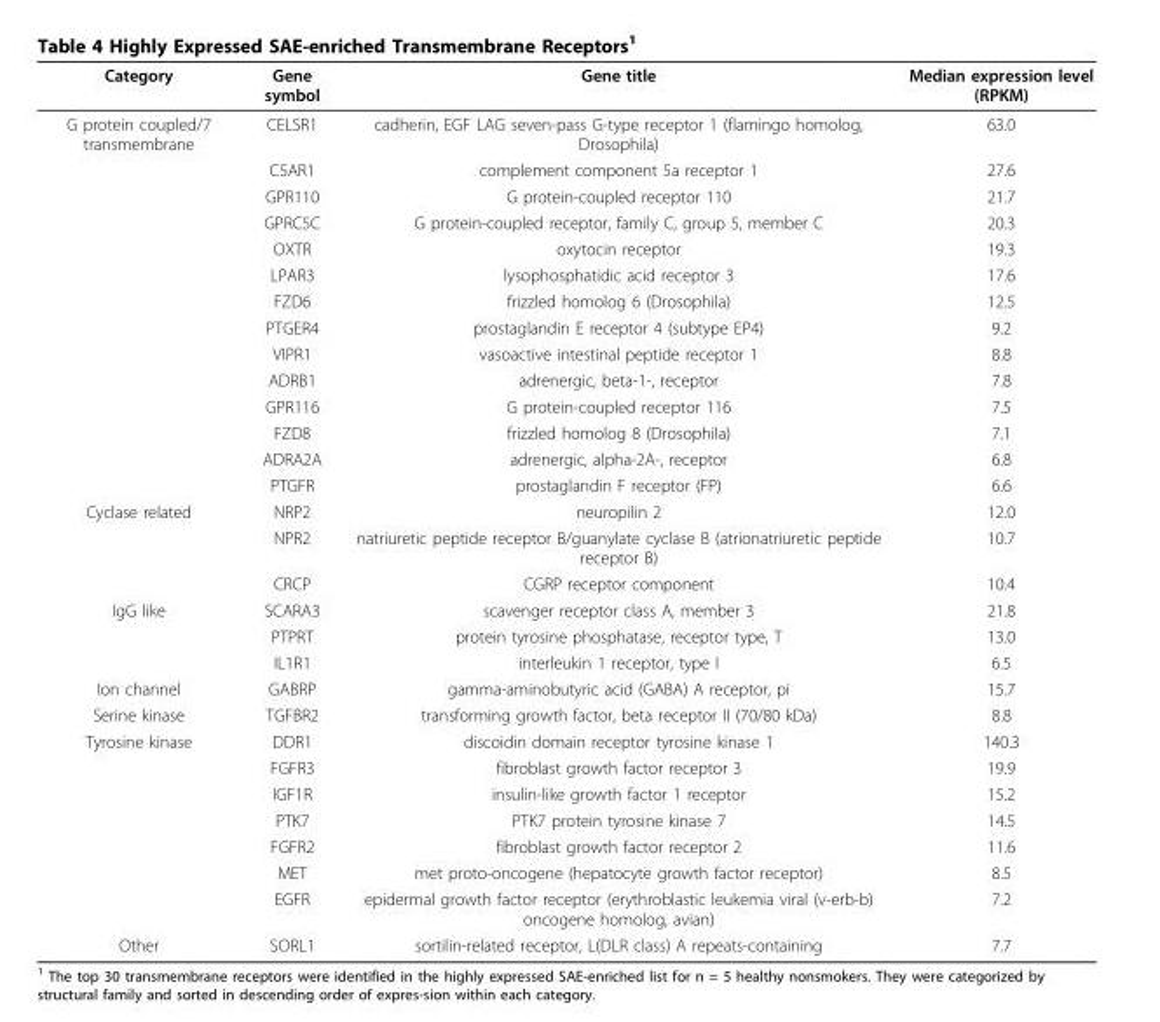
<table><thead><tr><td>Category</td><td>Gene symbol</td><td>Gene title</td><td>Median expression level (RPKM)</td></tr></thead><tbody><tr><td rowspan="14">G protein coupled/7 transmembrane</td><td>CELSR1</td><td>cadherin, EGF LAG seven-pass G-type receptor 1 (flamingo homolog, Drosophila)</td><td>63.0</td></tr><tr><td>C5AR1</td><td>complement component 5a receptor 1</td><td>27.6</td></tr><tr><td>GPR110</td><td>G protein-coupled receptor 110</td><td>21.7</td></tr><tr><td>GPRC5C</td><td>G protein-coupled receptor, family C, group 5, member C</td><td>20.3</td></tr><tr><td>OXTR</td><td>oxytocin receptor</td><td>19.3</td></tr><tr><td>LPAR3</td><td>lysophosphatidic acid receptor 3</td><td>17.6</td></tr><tr><td>FZD6</td><td>frizzled homolog 6 (Drosophila)</td><td>12.5</td></tr><tr><td>PTGER4</td><td>prostaglandin E receptor 4 (subtype EP4)</td><td>9.2</td></tr><tr><td>VIPR1</td><td>vasoactive intestinal peptide receptor 1</td><td>8.8</td></tr><tr><td>ADRB1</td><td>adrenergic, beta-1-, receptor</td><td>7.8</td></tr><tr><td>GPR116</td><td>G protein-coupled receptor 116</td><td>7.5</td></tr><tr><td>FZD8</td><td>frizzled homolog 8 (Drosophila)</td><td>7.1</td></tr><tr><td>ADRA2A</td><td>adrenergic, alpha-2A-, receptor</td><td>6.8</td></tr><tr><td>PTGFR</td><td>prostaglandin F receptor (FP)</td><td>6.6</td></tr><tr><td rowspan="3">Cyclase related</td><td>NRP2</td><td>neuropilin 2</td><td>12.0</td></tr><tr><td>NPR2</td><td>natriuretic peptide receptor B/guanylate cyclase B (atrionatriuretic peptide receptor B)</td><td>10.7</td></tr><tr><td>CRCP</td><td>CGRP receptor component</td><td>10.4</td></tr><tr><td rowspan="3">IgG like</td><td>SCARA3</td><td>scavenger receptor class A, member 3</td><td>21.8</td></tr><tr><td>PTPRT</td><td>protein tyrosine phosphatase, receptor type, T</td><td>13.0</td></tr><tr><td>IL1R1</td><td>interleukin 1 receptor, type I</td><td>6.5</td></tr><tr><td>Ion channel</td><td>GABRP</td><td>gamma-aminobutyric acid (GABA) A receptor, pi</td><td>15.7</td></tr><tr><td>Serine kinase</td><td>TGFBR2</td><td>transforming growth factor, beta receptor II (70/80 kDa)</td><td>8.8</td></tr><tr><td rowspan="7">Tyrosine kinase</td><td>DDR1</td><td>discoidin domain receptor tyrosine kinase 1</td><td>140.3</td></tr><tr><td>FGFR3</td><td>fibroblast growth factor receptor 3</td><td>19.9</td></tr><tr><td>IGF1R</td><td>insulin-like growth factor 1 receptor</td><td>15.2</td></tr><tr><td>PTK7</td><td>PTK7 protein tyrosine kinase 7</td><td>14.5</td></tr><tr><td>FGFR2</td><td>fibroblast growth factor receptor 2</td><td>11.6</td></tr><tr><td>MET</td><td>met proto-oncogene (hepatocyte growth factor receptor)</td><td>8.5</td></tr><tr><td>EGFR</td><td>epidermal growth factor receptor (erythroblastic leukemia viral (v-erb-b) oncogene homolog, avian)</td><td>7.2</td></tr><tr><td>Other</td><td>SORL1</td><td>sortilin-related receptor, L(DLR class) A repeats-containing</td><td>7.7</td></tr></tbody></table>